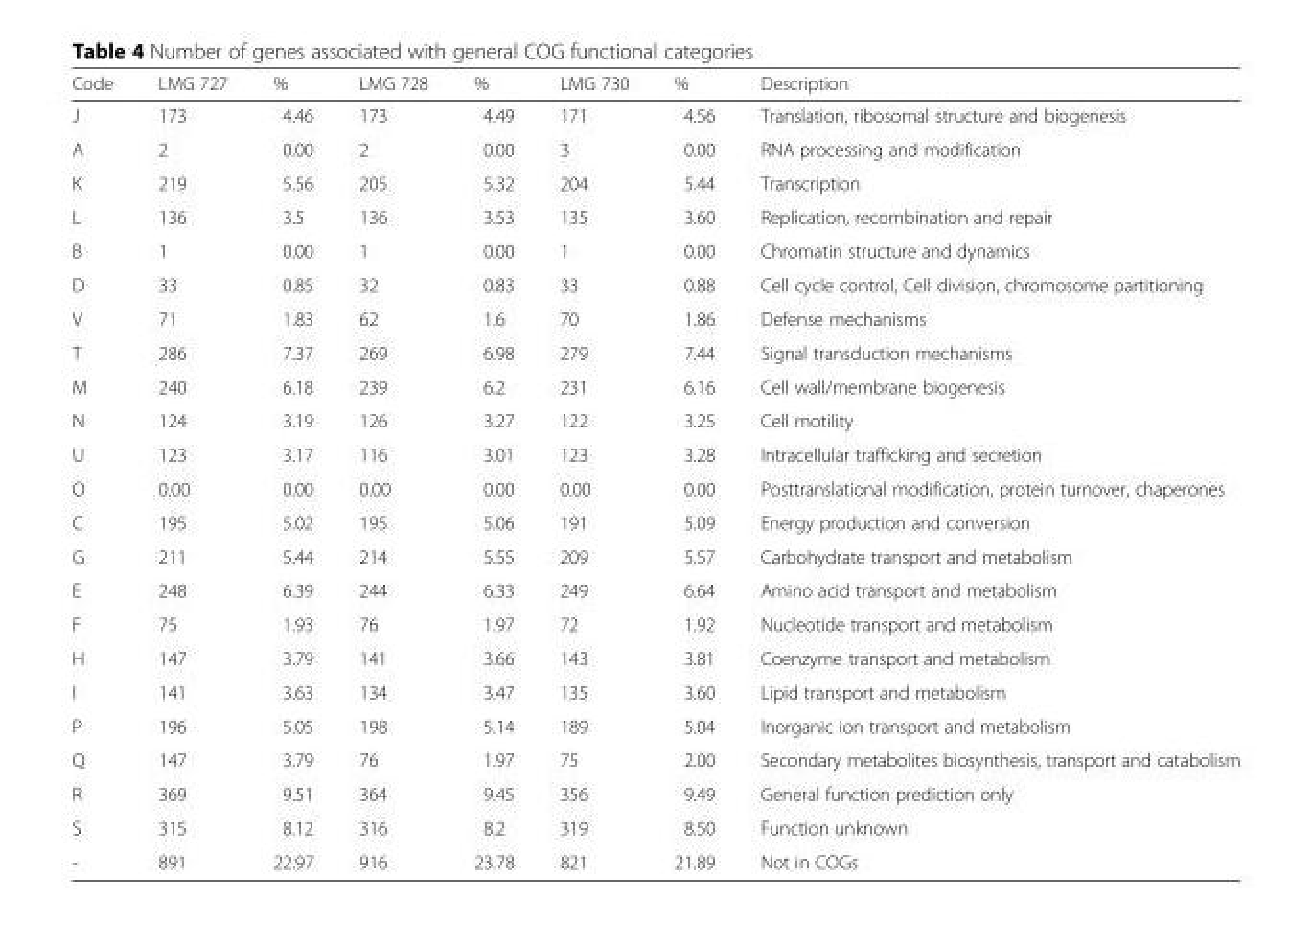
<table><thead><tr><td>Code</td><td>LMG 727</td><td>%</td><td>LMG 728</td><td>%</td><td>LMG 730</td><td>%</td><td>Description</td></tr></thead><tbody><tr><td>J</td><td>173</td><td>4.46</td><td>173</td><td>4.49</td><td>171</td><td>4.56</td><td>Translation, ribosomal structure and biogenesis</td></tr><tr><td>A</td><td>2</td><td>0.00</td><td>2</td><td>0.00</td><td>3</td><td>0.00</td><td>RNA processing and modification</td></tr><tr><td>K</td><td>219</td><td>5.56</td><td>205</td><td>5.32</td><td>204</td><td>5.44</td><td>Transcription</td></tr><tr><td>L</td><td>136</td><td>3.5</td><td>136</td><td>3.53</td><td>135</td><td>3.60</td><td>Replication, recombination and repair</td></tr><tr><td>B</td><td>1</td><td>0.00</td><td>1</td><td>0.00</td><td>1</td><td>0.00</td><td>Chromatin structure and dynamics</td></tr><tr><td>D</td><td>33</td><td>0.85</td><td>32</td><td>0.83</td><td>33</td><td>0.88</td><td>Cell cycle control, Cell division, chromosome partitioning</td></tr><tr><td>V</td><td>71</td><td>1.83</td><td>62</td><td>1.6</td><td>70</td><td>1.86</td><td>Defense mechanisms</td></tr><tr><td>T</td><td>286</td><td>7.37</td><td>269</td><td>6.98</td><td>279</td><td>7.44</td><td>Signal transduction mechanisms</td></tr><tr><td>M</td><td>240</td><td>6.18</td><td>239</td><td>6.2</td><td>231</td><td>6.16</td><td>Cell wall/membrane biogenesis</td></tr><tr><td>N</td><td>124</td><td>3.19</td><td>126</td><td>3.27</td><td>122</td><td>3.25</td><td>Cell motility</td></tr><tr><td>U</td><td>123</td><td>3.17</td><td>116</td><td>3.01</td><td>123</td><td>3.28</td><td>Intracellular trafficking and secretion</td></tr><tr><td>O</td><td>0.00</td><td>0.00</td><td>0.00</td><td>0.00</td><td>0.00</td><td>0.00</td><td>Posttranslational modification, protein turnover, chaperones</td></tr><tr><td>C</td><td>195</td><td>5.02</td><td>195</td><td>5.06</td><td>191</td><td>5.09</td><td>Energy production and conversion</td></tr><tr><td>G</td><td>211</td><td>5.44</td><td>214</td><td>5.55</td><td>209</td><td>5.57</td><td>Carbohydrate transport and metabolism</td></tr><tr><td>E</td><td>248</td><td>6.39</td><td>244</td><td>6.33</td><td>249</td><td>6.64</td><td>Amino acid transport and metabolism</td></tr><tr><td>F</td><td>75</td><td>1.93</td><td>76</td><td>1.97</td><td>72</td><td>1.92</td><td>Nucleotide transport and metabolism</td></tr><tr><td>H</td><td>147</td><td>3.79</td><td>141</td><td>3.66</td><td>143</td><td>3.81</td><td>Coenzyme transport and metabolism</td></tr><tr><td>I</td><td>141</td><td>3.63</td><td>134</td><td>3.47</td><td>135</td><td>3.60</td><td>Lipid transport and metabolism</td></tr><tr><td>P</td><td>196</td><td>5.05</td><td>198</td><td>5.14</td><td>189</td><td>5.04</td><td>Inorganic ion transport and metabolism</td></tr><tr><td>Q</td><td>147</td><td>3.79</td><td>76</td><td>1.97</td><td>75</td><td>2.00</td><td>Secondary metabolites biosynthesis, transport and catabolism</td></tr><tr><td>R</td><td>369</td><td>9.51</td><td>364</td><td>9.45</td><td>356</td><td>9.49</td><td>General function prediction only</td></tr><tr><td>S</td><td>315</td><td>8.12</td><td>316</td><td>8.2</td><td>319</td><td>8.50</td><td>Function unknown</td></tr><tr><td>-</td><td>891</td><td>22.97</td><td>916</td><td>23.78</td><td>821</td><td>21.89</td><td>Not in COGs</td></tr></tbody></table>